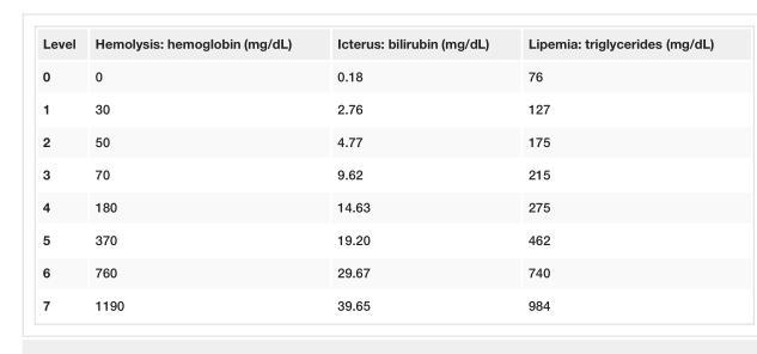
<table><tbody><tr><td>Level</td><td>Hemolysis: hemoglobin (mg/dL)</td><td>Icterus: bilirubin (mg/dL)</td><td>Lipemia: triglycerides (mg/dL)</td></tr><tr><td>0</td><td>0</td><td>0.18</td><td>76</td></tr><tr><td>1</td><td>30</td><td>2.76</td><td>127</td></tr><tr><td>2</td><td>50</td><td>4.77</td><td>175</td></tr><tr><td>3</td><td>70</td><td>9.62</td><td>215</td></tr><tr><td>4</td><td>180</td><td>14.63</td><td>275</td></tr><tr><td>5</td><td>370</td><td>19.20</td><td>462</td></tr><tr><td>6</td><td>760</td><td>29.67</td><td>740</td></tr><tr><td>7</td><td>1190</td><td>39.65</td><td>984</td></tr></tbody></table>